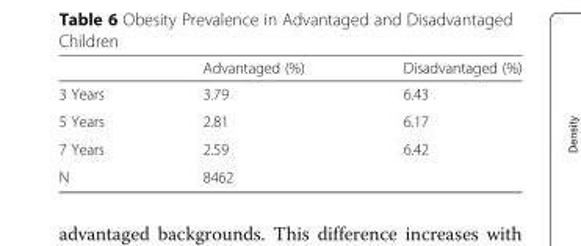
<table><thead><tr><td></td><td>Advantaged (%)</td><td>Disadvantaged (%)</td></tr></thead><tbody><tr><td>3 Years</td><td>3.79</td><td>6.43</td></tr><tr><td>5 Years</td><td>2.81</td><td>6.17</td></tr><tr><td>7 Years</td><td>2.59</td><td>6.42</td></tr><tr><td>N</td><td colspan="2">8462</td></tr></tbody></table>